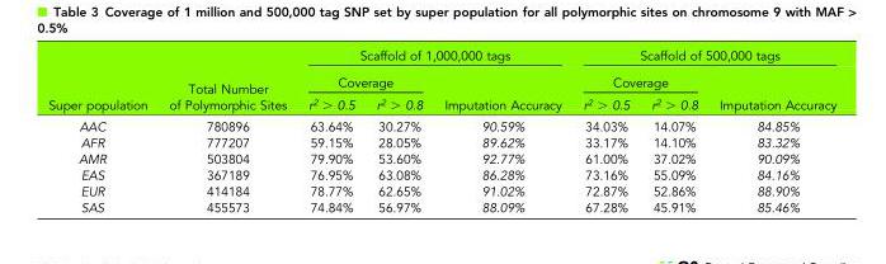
<table><thead><tr><td rowspan="3">Super population</td><td rowspan="3">Total Number of Polymorphic Sites</td><td colspan="3">Scaffold of 1,000,000 tags</td><td colspan="3">Scaffold of 500,000 tags</td></tr><tr><td colspan="2">Coverage</td><td rowspan="2">Imputation Accuracy</td><td colspan="2">Coverage</td><td rowspan="2">Imputation Accuracy</td></tr><tr><td>r<sup>2</sup> &gt; 0.5</td><td>r<sup>2</sup> &gt; 0.8</td><td>r<sup>2</sup> &gt; 0.5</td><td>r<sup>2</sup> &gt; 0.8</td></tr></thead><tbody><tr><td>AAC</td><td>780896</td><td>63.64%</td><td>30.27%</td><td>90.59%</td><td>34.03%</td><td>14.07%</td><td>84.85%</td></tr><tr><td>AFR</td><td>777207</td><td>59.15%</td><td>28.05%</td><td>89.62%</td><td>33.17%</td><td>14.10%</td><td>83.32%</td></tr><tr><td>AMR</td><td>503804</td><td>79.90%</td><td>53.60%</td><td>92.77%</td><td>61.00%</td><td>37.02%</td><td>90.09%</td></tr><tr><td>EAS</td><td>367189</td><td>76.95%</td><td>63.08%</td><td>86.28%</td><td>73.16%</td><td>55.09%</td><td>84.16%</td></tr><tr><td>EUR</td><td>414184</td><td>78.77%</td><td>62.65%</td><td>91.02%</td><td>72.87%</td><td>52.86%</td><td>88.90%</td></tr><tr><td>SAS</td><td>455573</td><td>74.84%</td><td>56.97%</td><td>88.09%</td><td>67.28%</td><td>45.91%</td><td>85.46%</td></tr></tbody></table>